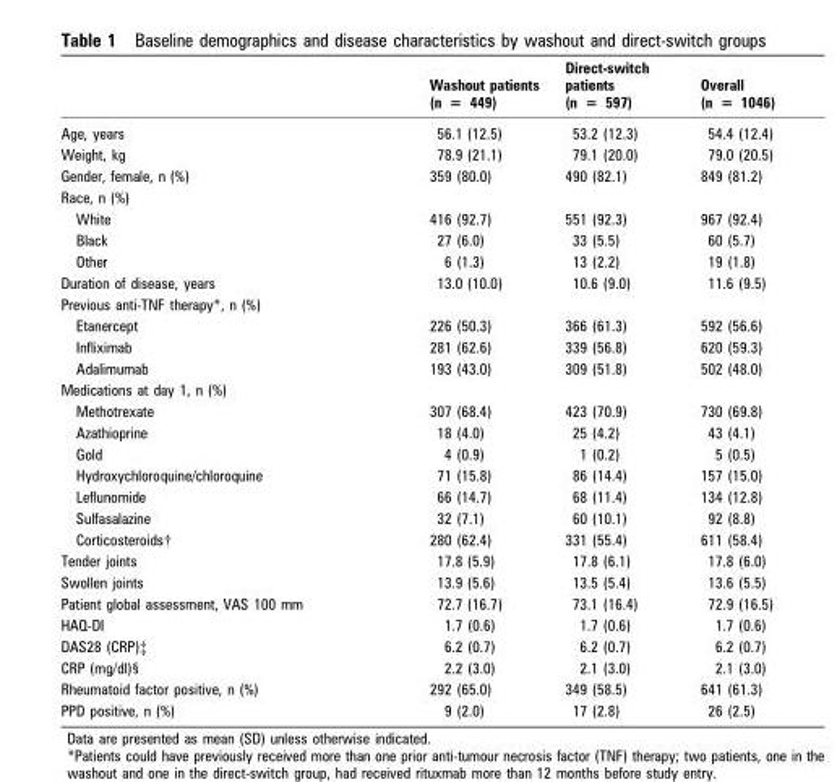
<table><thead><tr><td></td><td>Washout patients (n = 449)</td><td>Direct-switch patients (n = 597)</td><td>Overall (n = 1046)</td></tr></thead><tbody><tr><td>Age, years</td><td>56.1 (12.5)</td><td>53.2 (12.3)</td><td>54.4 (12.4)</td></tr><tr><td>Weight, kg</td><td>78.9 (21.1)</td><td>79.1 (20.0)</td><td>79.0 (20.5)</td></tr><tr><td>Gender, female, n (%)</td><td>359 (80.0)</td><td>490 (82.1)</td><td>849 (81.2)</td></tr><tr><td colspan="4">Race, n (%)</td></tr><tr><td>White</td><td>416 (92.7)</td><td>551 (92.3)</td><td>967 (92.4)</td></tr><tr><td>Black</td><td>27 (6.0)</td><td>33 (5.5)</td><td>60 (5.7)</td></tr><tr><td>Other</td><td>6 (1.3)</td><td>13 (2.2)</td><td>19 (1.8)</td></tr><tr><td>Duration of disease, years</td><td>13.0 (10.0)</td><td>10.6 (9.0)</td><td>11.6 (9.5)</td></tr><tr><td colspan="4">Previous anti-TNF therapy*, n (%)</td></tr><tr><td>Etanercept</td><td>226 (50.3)</td><td>366 (61.3)</td><td>592 (56.6)</td></tr><tr><td>Infliximab</td><td>281 (62.6)</td><td>339 (56.8)</td><td>620 (59.3)</td></tr><tr><td>Adalimumab</td><td>193 (43.0)</td><td>309 (51.8)</td><td>502 (48.0)</td></tr><tr><td colspan="4">Medications at day 1, n (%)</td></tr><tr><td>Methotrexate</td><td>307 (68.4)</td><td>423 (70.9)</td><td>730 (69.8)</td></tr><tr><td>Azathioprine</td><td>18 (4.0)</td><td>25 (4.2)</td><td>43 (4.1)</td></tr><tr><td>Gold</td><td>4 (0.9)</td><td>1 (0.2)</td><td>5 (0.5)</td></tr><tr><td>Hydroxychloroquine/chloroquine</td><td>71 (15.8)</td><td>86 (14.4)</td><td>157 (15.0)</td></tr><tr><td>Leflunomide</td><td>66 (14.7)</td><td>68 (11.4)</td><td>134 (12.8)</td></tr><tr><td>Sulfasalazine</td><td>32 (7.1)</td><td>60 (10.1)</td><td>92 (8.8)</td></tr><tr><td>Corticosteroids†</td><td>280 (62.4)</td><td>331 (55.4)</td><td>611 (58.4)</td></tr><tr><td>Tender joints</td><td>17.8 (5.9)</td><td>17.8 (6.1)</td><td>17.8 (6.0)</td></tr><tr><td>Swollen joints</td><td>13.9 (5.6)</td><td>13.5 (5.4)</td><td>13.6 (5.5)</td></tr><tr><td>Patient global assessment, VAS 100 mm</td><td>72.7 (16.7)</td><td>73.1 (16.4)</td><td>72.9 (16.5)</td></tr><tr><td>HAQ-DI</td><td>1.7 (0.6)</td><td>1.7 (0.6)</td><td>1.7 (0.6)</td></tr><tr><td>DAS28 (CRP)‡</td><td>6.2 (0.7)</td><td>6.2 (0.7)</td><td>6.2 (0.7)</td></tr><tr><td>CRP (mg/dl)§</td><td>2.2 (3.0)</td><td>2.1 (3.0)</td><td>2.1 (3.0)</td></tr><tr><td>Rheumatoid factor positive, n (%)</td><td>292 (65.0)</td><td>349 (58.5)</td><td>641 (61.3)</td></tr><tr><td>PPD positive, n (%)</td><td>9 (2.0)</td><td>17 (2.8)</td><td>26 (2.5)</td></tr></tbody></table>